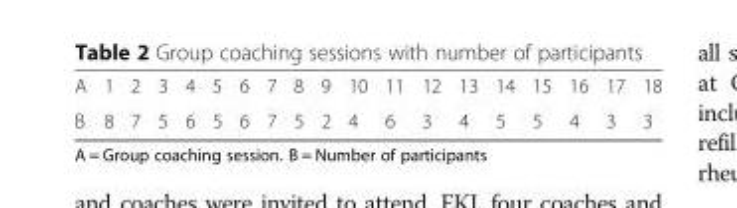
<table><tbody><tr><td>A</td><td>1</td><td>2</td><td>3</td><td>4</td><td>5</td><td>6</td><td>7</td><td>8</td><td>9</td><td>10</td><td>11</td><td>12</td><td>13</td><td>14</td><td>15</td><td>16</td><td>17</td><td>18</td></tr><tr><td>B</td><td>8</td><td>7</td><td>5</td><td>6</td><td>5</td><td>6</td><td>7</td><td>5</td><td>2</td><td>4</td><td>6</td><td>3</td><td>4</td><td>5</td><td>5</td><td>4</td><td>3</td><td>3</td></tr></tbody></table>